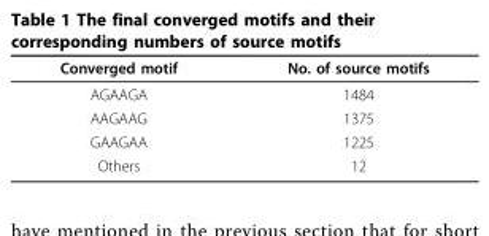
<table><thead><tr><td>Converged motif</td><td>No. of source motifs</td></tr></thead><tbody><tr><td>AGAAGA</td><td>1484</td></tr><tr><td>AAGAAG</td><td>1375</td></tr><tr><td>GAAGAA</td><td>1225</td></tr><tr><td>Others</td><td>12</td></tr></tbody></table>